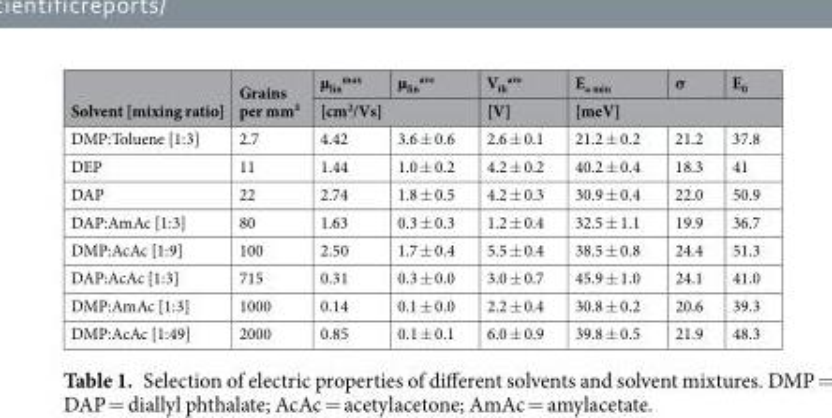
<table><thead><tr><td rowspan="2">Solvent [mixing ratio]</td><td rowspan="2">Grains per mm²</td><td>µ<sub>lin</sub> <sup>max</sup></td><td>µ<sub>lin</sub> <sup>ave</sup></td><td rowspan="2">V<sub>th</sub> <sup>ave</sup> [V]</td><td>E<sub>a min</sub></td><td>σ</td><td>E<sub>0</sub></td></tr><tr><td colspan="2">[cm<sup>2</sup>/Vs]</td><td colspan="3">[meV]</td></tr></thead><tbody><tr><td>DMP:Toluene [1:3]</td><td>2.7</td><td>4.42</td><td>3.6 ± 0.6</td><td>2.6 ± 0.1</td><td>21.2 ± 0.2</td><td>21.2</td><td>37.8</td></tr><tr><td>DEP</td><td>11</td><td>1.44</td><td>1.0 ± 0.2</td><td>4.2 ± 0.2</td><td>40.2 ± 0.4</td><td>18.3</td><td>41</td></tr><tr><td>DAP</td><td>22</td><td>2.74</td><td>1.8 ± 0.5</td><td>4.2 ± 0.3</td><td>30.9 ± 0.4</td><td>22.0</td><td>50.9</td></tr><tr><td>DAP:AmAc [1:3]</td><td>80</td><td>1.63</td><td>0.3 ± 0.3</td><td>1.2 ± 0.4</td><td>32.5 ± 1.1</td><td>19.9</td><td>36.7</td></tr><tr><td>DMP:AcAc [1:9]</td><td>100</td><td>2.50</td><td>1.7 ± 0.4</td><td>5.5 ± 0.4</td><td>38.5 ± 0.8</td><td>24.4</td><td>51.3</td></tr><tr><td>DAP:AcAc [1:3]</td><td>715</td><td>0.31</td><td>0.3 ± 0.0</td><td>3.0 ± 0.7</td><td>45.9 ± 1.0</td><td>24.1</td><td>41.0</td></tr><tr><td>DMP:AmAc [1:3]</td><td>1000</td><td>0.14</td><td>0.1 ± 0.0</td><td>2.2 ± 0.4</td><td>30.8 ± 0.2</td><td>20.6</td><td>39.3</td></tr><tr><td>DMP:AcAc [1:49]</td><td>2000</td><td>0.85</td><td>0.1 ± 0.1</td><td>6.0 ± 0.9</td><td>39.8 ± 0.5</td><td>21.9</td><td>48.3</td></tr></tbody></table>